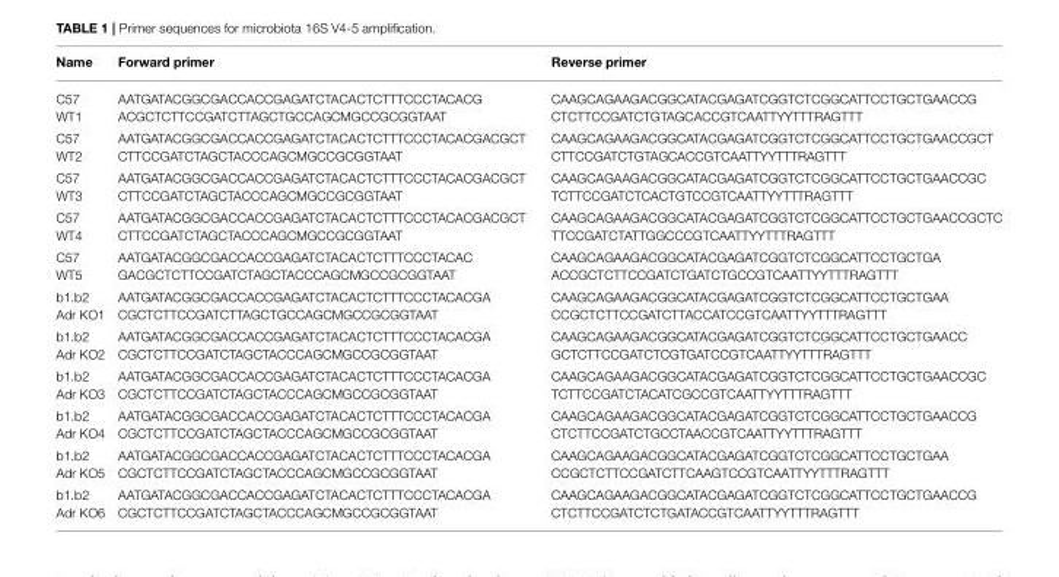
<table><thead><tr><td>Name</td><td>Forward primer</td><td>Reverse primer</td></tr></thead><tbody><tr><td>C57 WT1</td><td>AATGATACGGCGACCACCGAGATCTACACTCTTTCCCTACACG ACGCTCTTCCGATCTTAGCTGCCAGCMGCCGCGGTAAT</td><td>CAAGCAGAAGACGGCATACGAGATCGGTCTCGGCATTCCTGCTGAACCG CTCTTCCGATCTGTAGCACCGTCAATTYYTTTRAGTTT</td></tr><tr><td>C57 WT2</td><td>AATGATACGGCGACCACCGAGATCTACACTCTTTCCCTACACGACGCT CTTCCGATCTAGCTACCCAGCMGCCGCGGTAAT</td><td>CAAGCAGAAGACGGCATACGAGATCGGTCTCGGCATTCCTGCTGAACCGCT CTTCCGATCTGTAGCACCGTCAATTYYTTTRAGTTT</td></tr><tr><td>C57 WT3</td><td>AATGATACGGCGACCACCGAGATCTACACTCTTTCCCTACACGACGCT CTTCCGATCTAGCTACCCAGCMGCCGCGGTAAT</td><td>CAAGCAGAAGACGGCATACGAGATCGGTCTCGGCATTCCTGCTGAACCGC TCTTCCGATCTCACTGTCCGTCAATTYYTTTRAGTTT</td></tr><tr><td>C57 WT4</td><td>AATGATACGGCGACCACCGAGATCTACACTCTTTCCCTACACGACGCT CTTCCGATCTAGCTACCCAGCMGCCGCGGTAAT</td><td>CAAGCAGAAGACGGCATACGAGATCGGTCTCGGCATTCCTGCTGAACCGCTC TTCCGATCTATTGGCCCGTCAATTYYTTTRAGTTT</td></tr><tr><td>C57 WT5</td><td>AATGATACGGCGACCACCGAGATCTACACTCTTTCCCTACAC GACGCTCTTCCGATCTAGCTACCCAGCMGCCGCGGTAAT</td><td>CAAGCAGAAGACGGCATACGAGATCGGTCTCGGCATTCCTGCTGA ACCGCTCTTCCGATCTGATCTGCCGTCAATTYYTTTRAGTTT</td></tr><tr><td>b1.b2 Adr KO1</td><td>AATGATACGGCGACCACCGAGATCTACACTCTTTCCCTACACGA CGCTCTTCCGATCTTAGCTGCCAGCMGCCGCGGTAAT</td><td>CAAGCAGAAGACGGCATACGAGATCGGTCTCGGCATTCCTGCTGAA CCGCTCTTCCGATCTTACCATCCGTCAATTYYTTTRAGTTT</td></tr><tr><td>b1.b2 Adr KO2</td><td>AATGATACGGCGACCACCGAGATCTACACTCTTTCCCTACACGA CGCTCTTCCGATCTAGCTACCCAGCMGCCGCGGTAAT</td><td>CAAGCAGAAGACGGCATACGAGATCGGTCTCGGCATTCCTGCTGAACC GCTCTTCCGATCTCGTGATCCGTCAATTYYTTTRAGTTT</td></tr><tr><td>b1.b2 Adr KO3</td><td>AATGATACGGCGACCACCGAGATCTACACTCTTTCCCTACACGA CGCTCTTCCGATCTAGCTACCCAGCMGCCGCGGTAAT</td><td>CAAGCAGAAGACGGCATACGAGATCGGTCTCGGCATTCCTGCTGAACCGC TCTTCCGATCTACATCGCCGTCAATTYYTTTRAGTTT</td></tr><tr><td>b1.b2 Adr KO4</td><td>AATGATACGGCGACCACCGAGATCTACACTCTTTCCCTACACGA CGCTCTTCCGATCTAGCTACCCAGCMGCCGCGGTAAT</td><td>CAAGCAGAAGACGGCATACGAGATCGGTCTCGGCATTCCTGCTGAACCG CTCTTCCGATCTGCCTAACCGTCAATTYYTTTRAGTTT</td></tr><tr><td>b1.b2 Adr KO5</td><td>AATGATACGGCGACCACCGAGATCTACACTCTTTCCCTACACGA CGCTCTTCCGATCTAGCTACCCAGCMGCCGCGGTAAT</td><td>CAAGCAGAAGACGGCATACGAGATCGGTCTCGGCATTCCTGCTGAA CCGCTCTTCCGATCTTCAAGTCCGTCAATTYYTTTRAGTTT</td></tr><tr><td>b1.b2 Adr KO6</td><td>AATGATACGGCGACCACCGAGATCTACACTCTTTCCCTACACGA CGCTCTTCCGATCTAGCTACCCAGCMGCCGCGGTAAT</td><td>CAAGCAGAAGACGGCATACGAGATCGGTCTCGGCATTCCTGCTGAACCG CTCTTCCGATCTCTGATACCGTCAATTYYTTTRAGTTT</td></tr></tbody></table>